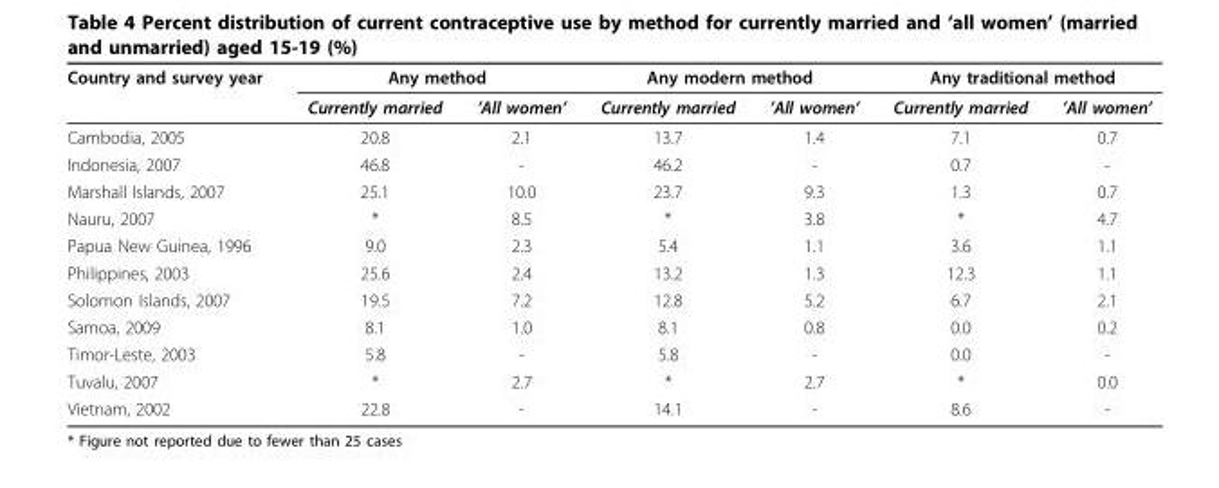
<table><thead><tr><td rowspan="2">Country and survey year</td><td colspan="2">Any method</td><td colspan="2">Any modern method</td><td colspan="2">Any traditional method</td></tr><tr><td>Currently married</td><td>’All women’</td><td>Currently married</td><td>’All women’</td><td>Currently married</td><td>’All women’</td></tr></thead><tbody><tr><td>Cambodia, 2005</td><td>20.8</td><td>2.1</td><td>13.7</td><td>1.4</td><td>7.1</td><td>0.7</td></tr><tr><td>Indonesia, 2007</td><td>46.8</td><td>-</td><td>46.2</td><td>-</td><td>0.7</td><td>-</td></tr><tr><td>Marshall Islands, 2007</td><td>25.1</td><td>10.0</td><td>23.7</td><td>9.3</td><td>1.3</td><td>0.7</td></tr><tr><td>Nauru, 2007</td><td>*</td><td>8.5</td><td>*</td><td>3.8</td><td>*</td><td>4.7</td></tr><tr><td>Papua New Guinea, 1996</td><td>9.0</td><td>2.3</td><td>5.4</td><td>1.1</td><td>3.6</td><td>1.1</td></tr><tr><td>Philippines, 2003</td><td>25.6</td><td>2.4</td><td>13.2</td><td>1.3</td><td>12.3</td><td>1.1</td></tr><tr><td>Solomon Islands, 2007</td><td>19.5</td><td>7.2</td><td>12.8</td><td>5.2</td><td>6.7</td><td>2.1</td></tr><tr><td>Samoa, 2009</td><td>8.1</td><td>1.0</td><td>8.1</td><td>0.8</td><td>0.0</td><td>0.2</td></tr><tr><td>Timor-Leste, 2003</td><td>5.8</td><td>-</td><td>5.8</td><td>-</td><td>0.0</td><td>-</td></tr><tr><td>Tuvalu, 2007</td><td>*</td><td>2.7</td><td>*</td><td>2.7</td><td>*</td><td>0.0</td></tr><tr><td>Vietnam, 2002</td><td>22.8</td><td>-</td><td>14.1</td><td>-</td><td>8.6</td><td>-</td></tr></tbody></table>